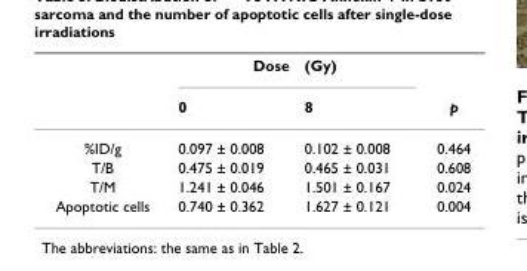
<table><thead><tr><td rowspan="2"></td><td rowspan="2">Dose 0</td><td rowspan="2">(Gy) 8</td><td rowspan="2">p</td></tr><tr></tr></thead><tbody><tr><td>%ID/g</td><td>0.097 ± 0.008</td><td>0.102 ± 0.008</td><td>0.464</td></tr><tr><td>T/B</td><td>0.475 ± 0.019</td><td>0.465 ± 0.031</td><td>0.608</td></tr><tr><td>T/M</td><td>1.241 ± 0.046</td><td>1.501 ± 0.167</td><td>0.024</td></tr><tr><td>Apoptotic cells</td><td>0.740 ± 0.362</td><td>1.627 ± 0.121</td><td>0.004</td></tr></tbody></table>